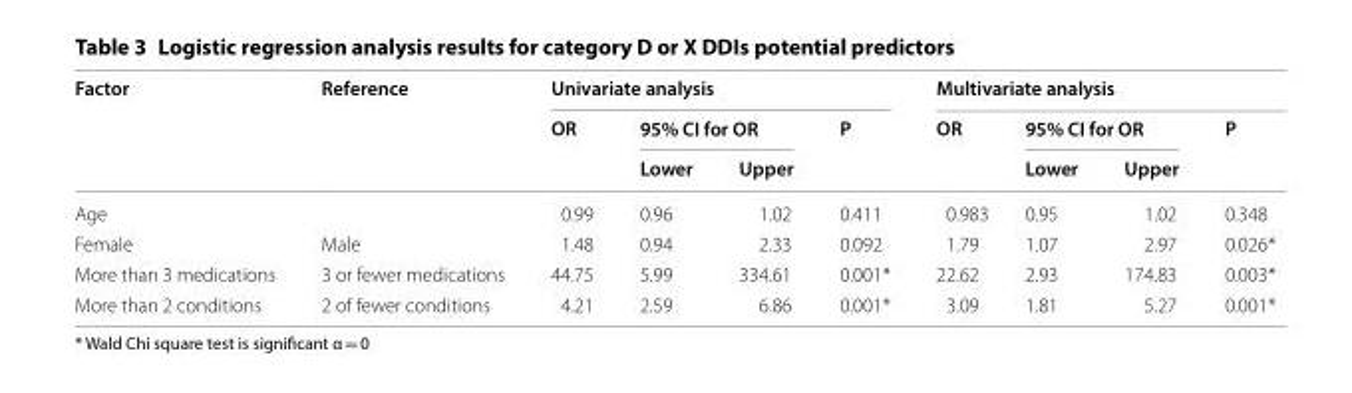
<table><thead><tr><td rowspan="3">Factor</td><td rowspan="3">Reference</td><td colspan="4">Univariate analysis</td><td colspan="4">Multivariate analysis</td></tr><tr><td rowspan="2">OR</td><td colspan="2">95% CI for OR</td><td rowspan="2">P</td><td rowspan="2">OR</td><td colspan="2">95% CI for OR</td><td rowspan="2">P</td></tr><tr><td>Lower</td><td>Upper</td><td>Lower</td><td>Upper</td></tr></thead><tbody><tr><td>Age</td><td></td><td>0.99</td><td>0.96</td><td>1.02</td><td>0.411</td><td>0.983</td><td>0.95</td><td>1.02</td><td>0.348</td></tr><tr><td>Female</td><td>Male</td><td>1.48</td><td>0.94</td><td>2.33</td><td>0.092</td><td>1.79</td><td>1.07</td><td>2.97</td><td>0.026*</td></tr><tr><td>More than 3 medications</td><td>3 or fewer medications</td><td>44.75</td><td>5.99</td><td>334.61</td><td>0.001*</td><td>22.62</td><td>2.93</td><td>174.83</td><td>0.003*</td></tr><tr><td>More than 2 conditions</td><td>2 of fewer conditions</td><td>4.21</td><td>2.59</td><td>6.86</td><td>0.001*</td><td>3.09</td><td>1.81</td><td>5.27</td><td>0.001*</td></tr></tbody></table>